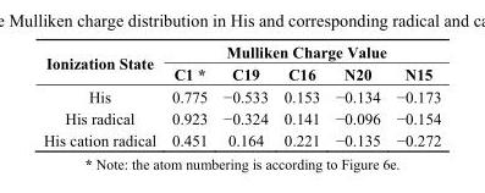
<table><thead><tr><td rowspan="2">Ionization State</td><td colspan="5">Mulliken Charge Value</td></tr><tr><td>С1 *</td><td>С19</td><td>С16</td><td>N20</td><td>N15</td></tr></thead><tbody><tr><td>His</td><td>0.775</td><td>−0.533</td><td>0.153</td><td>−0.134</td><td>−0.173</td></tr><tr><td>His radical</td><td>0.923</td><td>−0.324</td><td>0.141</td><td>−0.096</td><td>−0.154</td></tr><tr><td>His cation radical</td><td>0.451</td><td>0.164</td><td>0.221</td><td>−0.135</td><td>−0.272</td></tr></tbody></table>